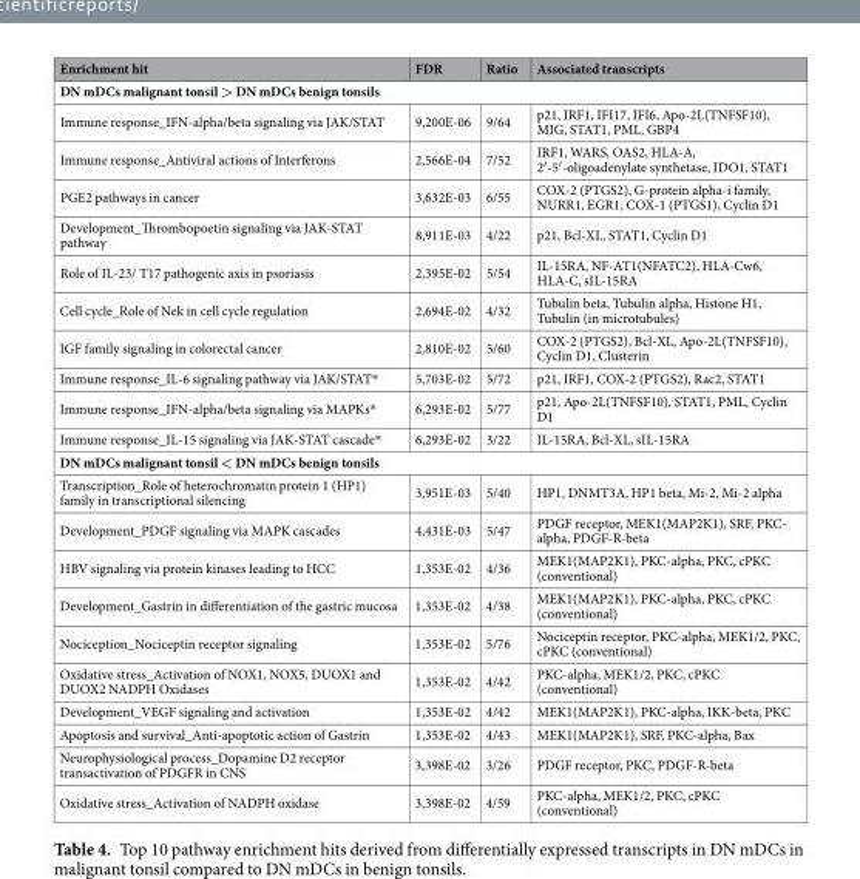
<table><thead><tr><td>Enrichment hit</td><td>FDR</td><td>Ratio</td><td>Associated transcripts</td></tr></thead><tbody><tr><td colspan="4">DN mDCs malignant tonsil &gt; DN mDCs benign tonsils</td></tr><tr><td>Immune response_IFN-alpha/beta signaling via JAK/STAT</td><td>9,200E-06</td><td>9/64</td><td>p21, IRF1, IFI17, IFI6, Apo-2L(TNFSF10), MIG, STAT1, PML, GBP4</td></tr><tr><td>Immune response_Antiviral actions of Interferons</td><td>2,566E-04</td><td>7/52</td><td>IRF1, WARS, OAS2, HLA-A, 2′-5′-oligoadenylate synthetase, IDO1, STAT1</td></tr><tr><td>PGE2 pathways in cancer</td><td>3,632E-03</td><td>6/55</td><td>COX-2 (PTGS2), G-protein alpha-i family, NURR1, EGR1, COX-1 (PTGS1), Cyclin D1</td></tr><tr><td>Development_Thrombopoetin signaling via JAK-STAT pathway</td><td>8,911E-03</td><td>4/22</td><td>p21, Bcl-XL, STAT1, Cyclin D1</td></tr><tr><td>Role of IL-23/ T17 pathogenic axis in psoriasis</td><td>2,395E-02</td><td>5/54</td><td>IL-15RA, NF-AT1(NFATC2), HLA-Cw6, HLA-C, sIL-15RA</td></tr><tr><td>Cell cycle_Role of Nek in cell cycle regulation</td><td>2,694E-02</td><td>4/32</td><td>Tubulin beta, Tubulin alpha, Histone H1, Tubulin (in microtubules)</td></tr><tr><td>IGF family signaling in colorectal cancer</td><td>2,810E-02</td><td>5/60</td><td>COX-2 (PTGS2), Bcl-XL, Apo-2L(TNFSF10), Cyclin D1, Clusterin</td></tr><tr><td>Immune response_IL-6 signaling pathway via JAK/STAT*</td><td>5,703E-02</td><td>5/72</td><td>p21, IRF1, COX-2 (PTGS2), Rac2, STAT1</td></tr><tr><td>Immune response_IFN-alpha/beta signaling via MAPKs*</td><td>6,293E-02</td><td>5/77</td><td>p21, Apo-2L(TNFSF10), STAT1, PML, Cyclin D1</td></tr><tr><td>Immune response_IL-15 signaling via JAK-STAT cascade*</td><td>6,293E-02</td><td>3/22</td><td>IL-15RA, Bcl-XL, sIL-15RA</td></tr><tr><td colspan="4">DN mDCs malignant tonsil &lt; DN mDCs benign tonsils</td></tr><tr><td>Transcription_Role of heterochromatin protein 1 (HP1) family in transcriptional silencing</td><td>3,951E-03</td><td>5/40</td><td>HP1, DNMT3A, HP1 beta, Mi-2, Mi-2 alpha</td></tr><tr><td>Development_PDGF signaling via MAPK cascades</td><td>4,431E-03</td><td>5/47</td><td>PDGF receptor, MEK1(MAP2K1), SRF, PKC- alpha, PDGF-R-beta</td></tr><tr><td>HBV signaling via protein kinases leading to HCC</td><td>1,353E-02</td><td>4/36</td><td>MEK1(MAP2K1), PKC-alpha, PKC, cPKC (conventional)</td></tr><tr><td>Development_Gastrin in differentiation of the gastric mucosa</td><td>1,353E-02</td><td>4/38</td><td>MEK1(MAP2K1), PKC-alpha, PKC, cPKC (conventional)</td></tr><tr><td>Nociception_Nociceptin receptor signaling</td><td>1,353E-02</td><td>5/76</td><td>Nociceptin receptor, PKC-alpha, MEK1/2, PKC, cPKC (conventional)</td></tr><tr><td>Oxidative stress_Activation of NOX1, NOX5, DUOX1 and DUOX2 NADPH Oxidases</td><td>1,353E-02</td><td>4/42</td><td>PKC-alpha, MEK1/2, PKC, cPKC (conventional)</td></tr><tr><td>Development_VEGF signaling and activation</td><td>1,353E-02</td><td>4/42</td><td>MEK1(MAP2K1), PKC-alpha, IKK-beta, PKC</td></tr><tr><td>Apoptosis and survival_Anti-apoptotic action of Gastrin</td><td>1,353E-02</td><td>4/43</td><td>MEK1(MAP2K1), SRF, PKC-alpha, Bax</td></tr><tr><td>Neurophysiological process_Dopamine D2 receptor transactivation of PDGFR in CNS</td><td>3,398E-02</td><td>3/26</td><td>PDGF receptor, PKC, PDGF-R-beta</td></tr><tr><td>Oxidative stress_Activation of NADPH oxidase</td><td>3,398E-02</td><td>4/59</td><td>PKC-alpha, MEK1/2, PKC, cPKC (conventional)</td></tr></tbody></table>